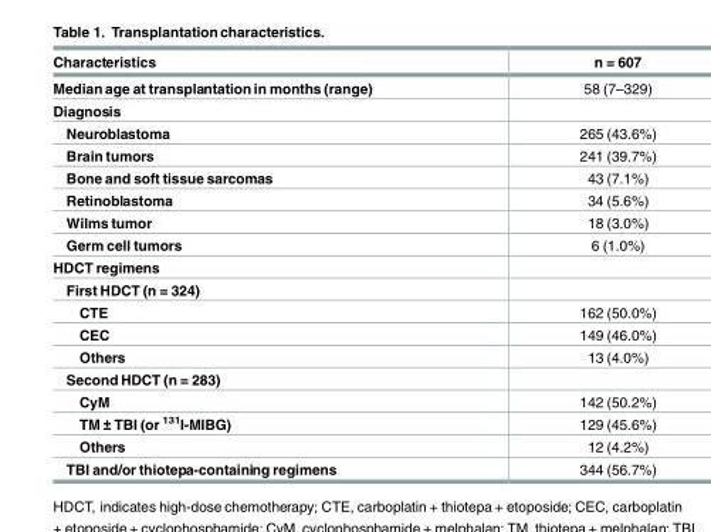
<table><thead><tr><td>Characteristics</td><td>n = 607</td></tr></thead><tbody><tr><td>Median age at transplantation in months (range)</td><td>58 (7–329)</td></tr><tr><td colspan="2">Diagnosis</td></tr><tr><td>Neuroblastoma</td><td>265 (43.6%)</td></tr><tr><td>Brain tumors</td><td>241 (39.7%)</td></tr><tr><td>Bone and soft tissue sarcomas</td><td>43 (7.1%)</td></tr><tr><td>Retinoblastoma</td><td>34 (5.6%)</td></tr><tr><td>Wilms tumor</td><td>18 (3.0%)</td></tr><tr><td>Germ cell tumors</td><td>6 (1.0%)</td></tr><tr><td colspan="2">HDCT regimens</td></tr><tr><td colspan="2">First HDCT (n = 324)</td></tr><tr><td>CTE</td><td>162 (50.0%)</td></tr><tr><td>CEC</td><td>149 (46.0%)</td></tr><tr><td>Others</td><td>13 (4.0%)</td></tr><tr><td colspan="2">Second HDCT (n = 283)</td></tr><tr><td>CyM</td><td>142 (50.2%)</td></tr><tr><td>TM ± TBI (or <sup>131</sup>I-MIBG)</td><td>129 (45.6%)</td></tr><tr><td>Others</td><td>12 (4.2%)</td></tr><tr><td>TBI and/or thiotepa-containing regimens</td><td>344 (56.7%)</td></tr></tbody></table>